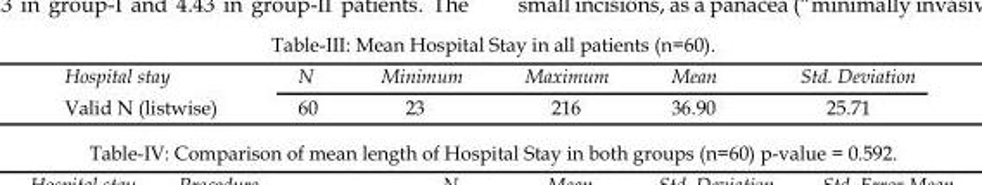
<table><thead><tr><td>Hospital stay</td><td>N</td><td>Minimum</td><td>Maximum</td><td>Mean</td><td>Std. Deviation</td></tr></thead><tbody><tr><td>Valid N (listwise)</td><td>60</td><td>23</td><td>216</td><td>36.90</td><td>25.71</td></tr></tbody></table>